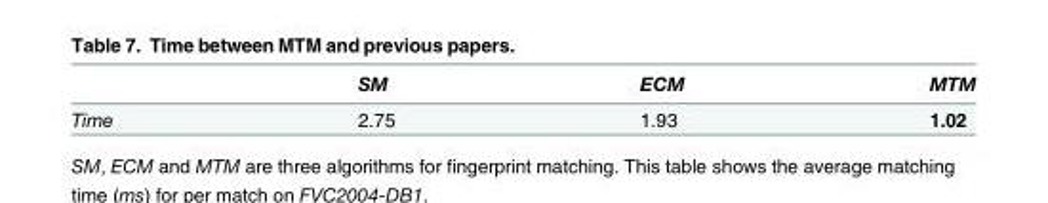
<table><thead><tr><td></td><td>SM</td><td>ECM</td><td>MTM</td></tr></thead><tbody><tr><td>Time</td><td>2.75</td><td>1.93</td><td>1.02</td></tr></tbody></table>